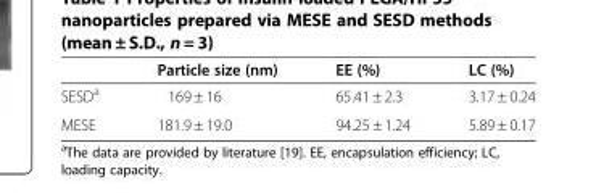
<table><thead><tr><td></td><td>Particle size (nm)</td><td>EE (%)</td><td>LC (%)</td></tr></thead><tbody><tr><td>SESD<sup>a</sup></td><td>169 ± 16</td><td>65.41 ± 2.3</td><td>3.17 ± 0.24</td></tr><tr><td>MESE</td><td>181.9 ± 19.0</td><td>94.25 ± 1.24</td><td>5.89 ± 0.17</td></tr></tbody></table>